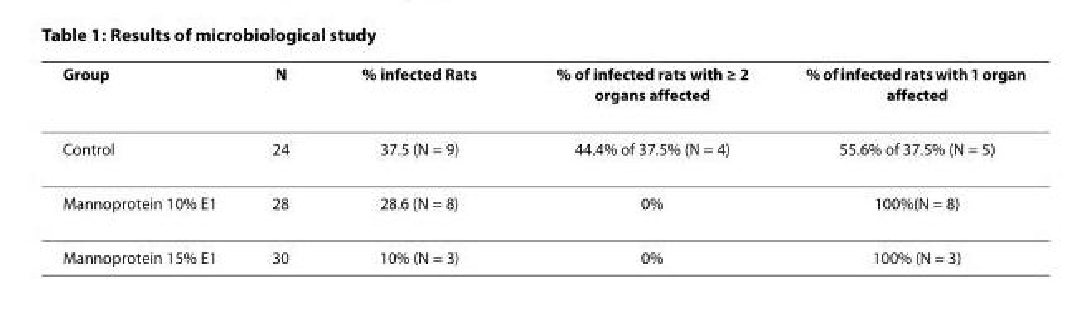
<table><thead><tr><td>Group</td><td>N</td><td>% infected Rats</td><td>% of infected rats with ≥ 2 organs affected</td><td>% of infected rats with 1 organ affected</td></tr></thead><tbody><tr><td>Control</td><td>24</td><td>37.5 (N = 9)</td><td>44.4% of 37.5% (N = 4)</td><td>55.6% of 37.5% (N = 5)</td></tr><tr><td>Mannoprotein 10% E1</td><td>28</td><td>28.6 (N = 8)</td><td>0%</td><td>100%(N = 8)</td></tr><tr><td>Mannoprotein 15% E1</td><td>30</td><td>10% (N = 3)</td><td>0%</td><td>100% (N = 3)</td></tr></tbody></table>